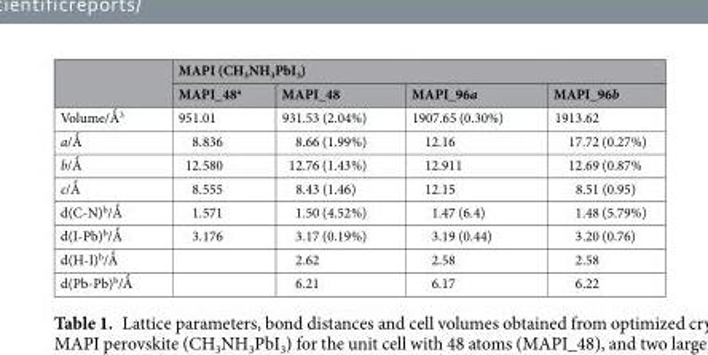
<table><thead><tr><td rowspan="2"></td><td colspan="4">MAPI (CH<sub>3</sub>NH<sub>3</sub>PbI<sub>3</sub>)</td></tr><tr><td>MAPI_48<sup>a</sup></td><td>MAPI_48</td><td>MAPI_96a</td><td>MAPI_96b</td></tr></thead><tbody><tr><td>Volume/Ǻ<sup>3</sup></td><td>951.01</td><td>931.53 (2.04%)</td><td>1907.65 (0.30%)</td><td>1913.62</td></tr><tr><td>a/Ǻ</td><td>8.836</td><td>8.66 (1.99%)</td><td>12.16</td><td>17.72 (0.27%)</td></tr><tr><td>b/Ǻ</td><td>12.580</td><td>12.76 (1.43%)</td><td>12.911</td><td>12.69 (0.87%</td></tr><tr><td>c/Ǻ</td><td>8.555</td><td>8.43 (1.46)</td><td>12.15</td><td>8.51 (0.95)</td></tr><tr><td>d(C-N)<sup>b</sup>/Ǻ</td><td>1.571</td><td>1.50 (4.52%)</td><td>1.47 (6.4)</td><td>1.48 (5.79%)</td></tr><tr><td>d(I-Pb)<sup>b</sup>/Ǻ</td><td>3.176</td><td>3.17 (0.19%)</td><td>3.19 (0.44)</td><td>3.20 (0.76)</td></tr><tr><td>d(H-I)<sup>b</sup>/Ǻ</td><td></td><td>2.62</td><td>2.58</td><td>2.58</td></tr><tr><td>d(Pb-Pb)<sup>b</sup>/Ǻ</td><td></td><td>6.21</td><td>6.17</td><td>6.22</td></tr></tbody></table>